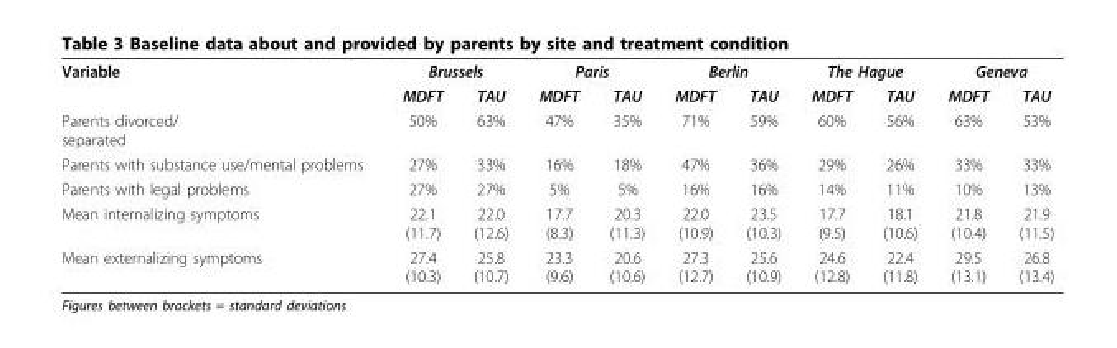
<table><tbody><tr><td rowspan="2">Variable</td><td colspan="2">Brussels</td><td colspan="2">Paris</td><td colspan="2">Berlin</td><td colspan="2">The Hague</td><td colspan="2">Geneva</td></tr><tr><td>MDFT</td><td>TAU</td><td>MDFT</td><td>TAU</td><td>MDFT</td><td>TAU</td><td>MDFT</td><td>TAU</td><td>MDFT</td><td>TAU</td></tr><tr><td>Parents divorced/ separated</td><td>50%</td><td>63%</td><td>47%</td><td>35%</td><td>71%</td><td>59%</td><td>60%</td><td>56%</td><td>63%</td><td>53%</td></tr><tr><td>Parents with substance use/mental problems</td><td>27%</td><td>33%</td><td>16%</td><td>18%</td><td>47%</td><td>36%</td><td>29%</td><td>26%</td><td>33%</td><td>33%</td></tr><tr><td>Parents with legal problems</td><td>27%</td><td>27%</td><td>5%</td><td>5%</td><td>16%</td><td>16%</td><td>14%</td><td>11%</td><td>10%</td><td>13%</td></tr><tr><td>Mean internalizing symptoms</td><td>22.1 (11.7)</td><td>22.0 (12.6)</td><td>17.7 (8.3)</td><td>20.3 (11.3)</td><td>22.0 (10.9)</td><td>23.5 (10.3)</td><td>17.7 (9.5)</td><td>18.1 (10.6)</td><td>21.8 (10.4)</td><td>21.9 (11.5)</td></tr><tr><td>Mean externalizing symptoms</td><td>27.4 (10.3)</td><td>25.8 (10.7)</td><td>23.3 (9.6)</td><td>20.6 (10.6)</td><td>27.3 (12.7)</td><td>25.6 (10.9)</td><td>24.6 (12.8)</td><td>22.4 (11.8)</td><td>29.5 (13.1)</td><td>26.8 (13.4)</td></tr></tbody></table>